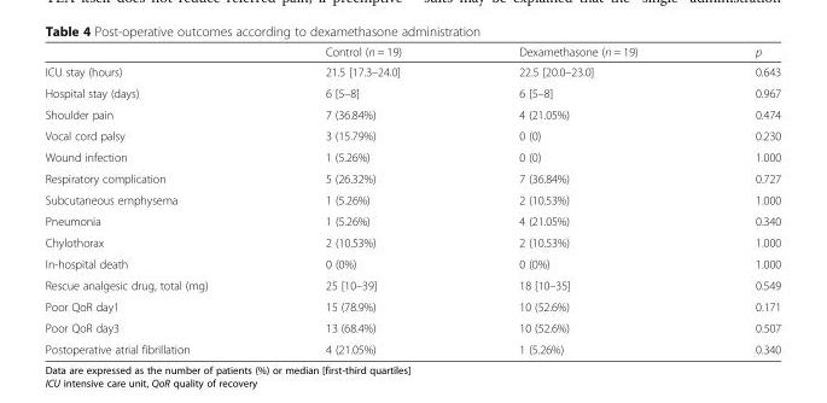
<table><thead><tr><td></td><td>Control (n = 19)</td><td>Dexamethasone (n = 19)</td><td>p</td></tr></thead><tbody><tr><td>ICU stay (hours)</td><td>21.5 [17.3–24.0]</td><td>22.5 [20.0–23.0]</td><td>0.643</td></tr><tr><td>Hospital stay (days)</td><td>6 [5–8]</td><td>6 [5–8]</td><td>0.967</td></tr><tr><td>Shoulder pain</td><td>7 (36.84%)</td><td>4 (21.05%)</td><td>0.474</td></tr><tr><td>Vocal cord palsy</td><td>3 (15.79%)</td><td>0 (0)</td><td>0.230</td></tr><tr><td>Wound infection</td><td>1 (5.26%)</td><td>0 (0)</td><td>1.000</td></tr><tr><td>Respiratory complication</td><td>5 (26.32%)</td><td>7 (36.84%)</td><td>0.727</td></tr><tr><td>Subcutaneous emphysema</td><td>1 (5.26%)</td><td>2 (10.53%)</td><td>1.000</td></tr><tr><td>Pneumonia</td><td>1 (5.26%)</td><td>4 (21.05%)</td><td>0.340</td></tr><tr><td>Chylothorax</td><td>2 (10.53%)</td><td>2 (10.53%)</td><td>1.000</td></tr><tr><td>In-hospital death</td><td>0 (0%)</td><td>0 (0%)</td><td>1.000</td></tr><tr><td>Rescue analgesic drug, total (mg)</td><td>25 [10–39]</td><td>18 [10–35]</td><td>0.549</td></tr><tr><td>Poor QoR day1</td><td>15 (78.9%)</td><td>10 (52.6%)</td><td>0.171</td></tr><tr><td>Poor QoR day3</td><td>13 (68.4%)</td><td>10 (52.6%)</td><td>0.507</td></tr><tr><td>Postoperative atrial fibrillation</td><td>4 (21.05%)</td><td>1 (5.26%)</td><td>0.340</td></tr></tbody></table>